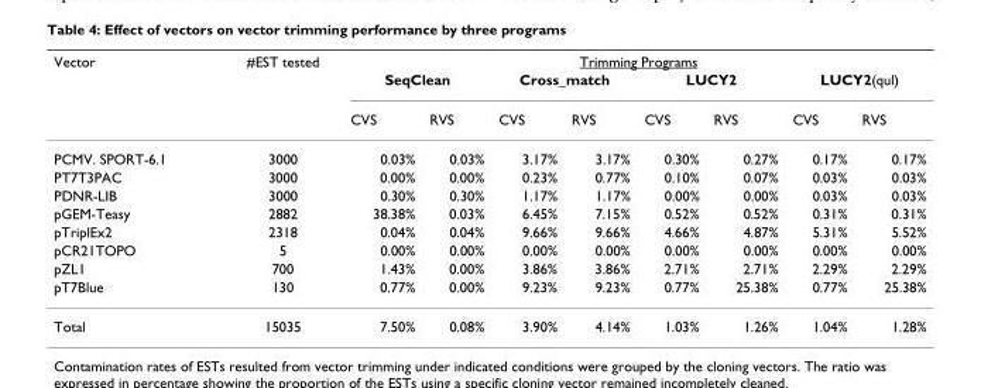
<table><thead><tr><td rowspan="3">Vector</td><td rowspan="3">#EST tested</td><td colspan="8">Trimming Programs</td></tr><tr><td colspan="2">SeqClean</td><td colspan="2">Cross_match</td><td colspan="2">LUCY2</td><td colspan="2">LUCY2(qul)</td></tr><tr><td>CVS</td><td>RVS</td><td>CVS</td><td>RVS</td><td>CVS</td><td>RVS</td><td>CVS</td><td>RVS</td></tr></thead><tbody><tr><td>PCMV. SPORT-6.1</td><td>3000</td><td>0.03%</td><td>0.03%</td><td>3.17%</td><td>3.17%</td><td>0.30%</td><td>0.27%</td><td>0.17%</td><td>0.17%</td></tr><tr><td>PT7T3PAC</td><td>3000</td><td>0.00%</td><td>0.00%</td><td>0.23%</td><td>0.77%</td><td>0.10%</td><td>0.07%</td><td>0.03%</td><td>0.03%</td></tr><tr><td>PDNR-LIB</td><td>3000</td><td>0.30%</td><td>0.30%</td><td>1.17%</td><td>1.17%</td><td>0.00%</td><td>0.00%</td><td>0.03%</td><td>0.03%</td></tr><tr><td>pGEM-Teasy</td><td>2882</td><td>38.38%</td><td>0.03%</td><td>6.45%</td><td>7.15%</td><td>0.52%</td><td>0.52%</td><td>0.31%</td><td>0.31%</td></tr><tr><td>pTriplEx2</td><td>2318</td><td>0.04%</td><td>0.04%</td><td>9.66%</td><td>9.66%</td><td>4.66%</td><td>4.87%</td><td>5.31%</td><td>5.52%</td></tr><tr><td>pCR21TOPO</td><td>5</td><td>0.00%</td><td>0.00%</td><td>0.00%</td><td>0.00%</td><td>0.00%</td><td>0.00%</td><td>0.00%</td><td>0.00%</td></tr><tr><td>pZL1</td><td>700</td><td>1.43%</td><td>0.00%</td><td>3.86%</td><td>3.86%</td><td>2.71%</td><td>2.71%</td><td>2.29%</td><td>2.29%</td></tr><tr><td>pT7Blue</td><td>130</td><td>0.77%</td><td>0.00%</td><td>9.23%</td><td>9.23%</td><td>0.77%</td><td>25.38%</td><td>0.77%</td><td>25.38%</td></tr><tr><td>Total</td><td>15035</td><td>7.50%</td><td>0.08%</td><td>3.90%</td><td>4.14%</td><td>1.03%</td><td>1.26%</td><td>1.04%</td><td>1.28%</td></tr></tbody></table>